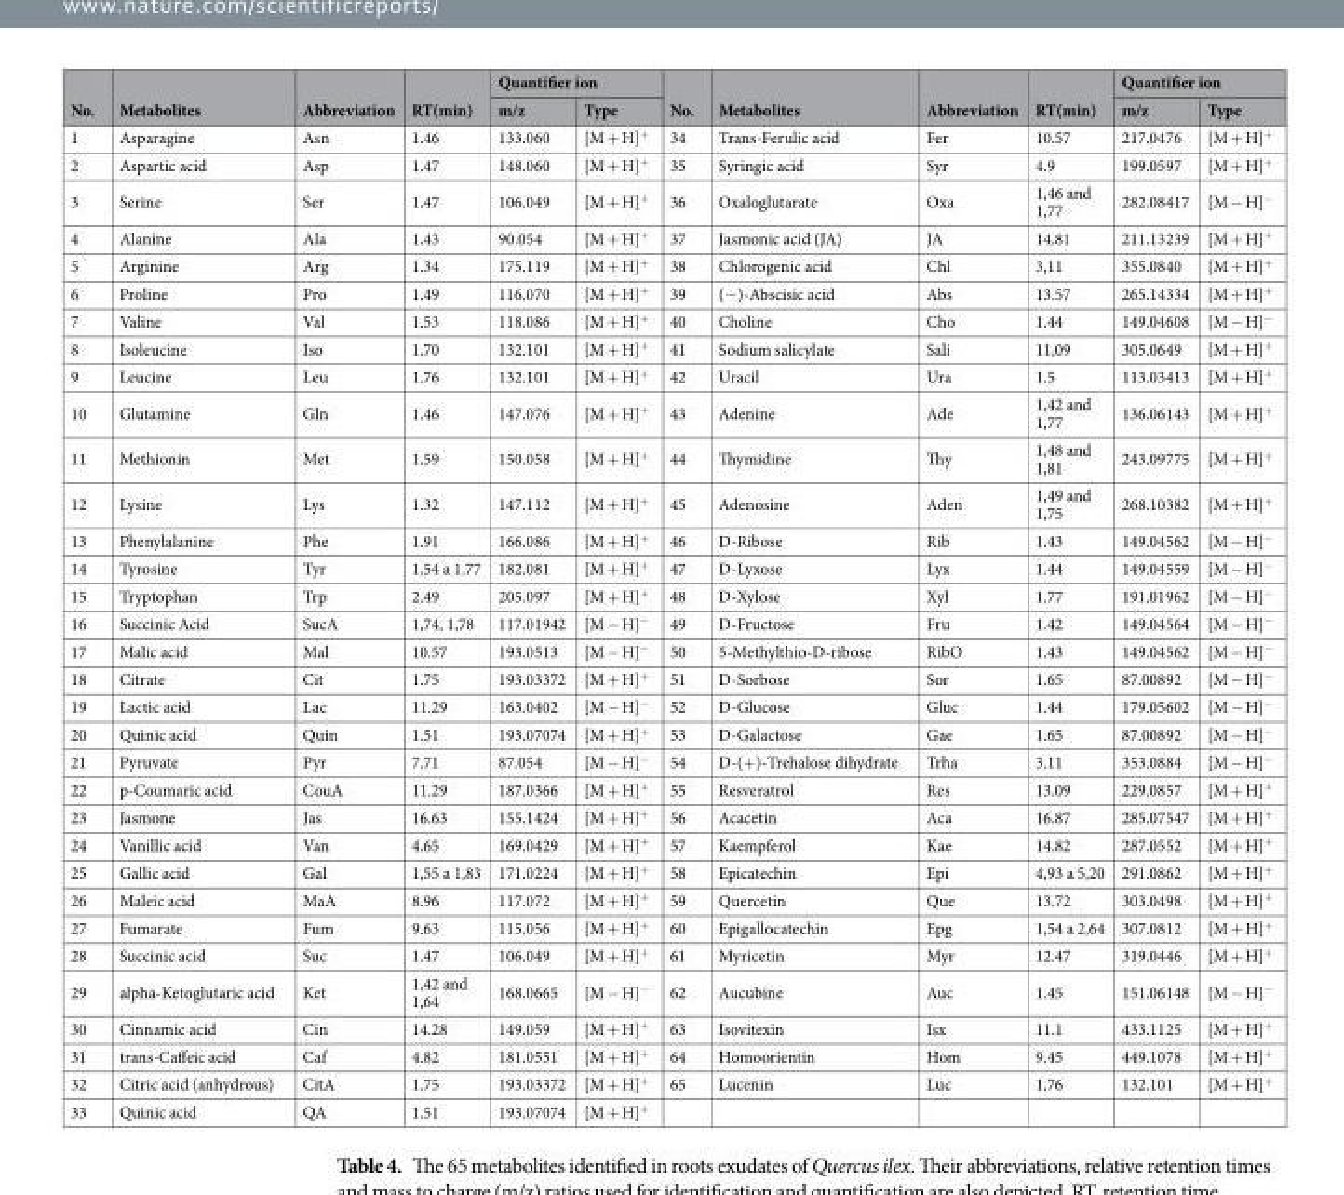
<table><thead><tr><td rowspan="2">No.</td><td rowspan="2">Metabolites</td><td rowspan="2">Abbreviation</td><td rowspan="2">RT(min)</td><td colspan="2">Quantifier ion</td><td rowspan="2">No.</td><td rowspan="2">Metabolites</td><td rowspan="2">Abbreviation</td><td rowspan="2">RT(min)</td><td colspan="2">Quantifier ion</td></tr><tr><td>m/z</td><td>Type</td><td>m/z</td><td>Type</td></tr></thead><tbody><tr><td>1</td><td>Asparagine</td><td>Asn</td><td>1.46</td><td>133.060</td><td>[M + H]<sup>+</sup></td><td>34</td><td>Trans-Ferulic acid</td><td>Fer</td><td>10.57</td><td>217.0476</td><td>[M + H]<sup>+</sup></td></tr><tr><td>2</td><td>Aspartic acid</td><td>Asp</td><td>1.47</td><td>148.060</td><td>[M + H]<sup>+</sup></td><td>35</td><td>Syringic acid</td><td>Syr</td><td>4.9</td><td>199.0597</td><td>[M + H]<sup>+</sup></td></tr><tr><td>3</td><td>Serine</td><td>Ser</td><td>1.47</td><td>106.049</td><td>[M + H]<sup>+</sup></td><td>36</td><td>Oxaloglutarate</td><td>Oxa</td><td>1,46 and 1,77</td><td>282.08417</td><td>[M − H]<sup>−</sup></td></tr><tr><td>4</td><td>Alanine</td><td>Ala</td><td>1.43</td><td>90.054</td><td>[M + H]<sup>+</sup></td><td>37</td><td>Jasmonic acid (JA)</td><td>JA</td><td>14.81</td><td>211.13239</td><td>[M + H]<sup>+</sup></td></tr><tr><td>5</td><td>Arginine</td><td>Arg</td><td>1.34</td><td>175.119</td><td>[M + H]<sup>+</sup></td><td>38</td><td>Chlorogenic acid</td><td>Chl</td><td>3,11</td><td>355.0840</td><td>[M + H]<sup>+</sup></td></tr><tr><td>6</td><td>Proline</td><td>Pro</td><td>1.49</td><td>116.070</td><td>[M + H]<sup>+</sup></td><td>39</td><td>(−)-Abscisic acid</td><td>Abs</td><td>13.57</td><td>265.14334</td><td>[M + H]<sup>+</sup></td></tr><tr><td>7</td><td>Valine</td><td>Val</td><td>1.53</td><td>118.086</td><td>[M + H]<sup>+</sup></td><td>40</td><td>Choline</td><td>Cho</td><td>1.44</td><td>149.04608</td><td>[M − H]<sup>−</sup></td></tr><tr><td>8</td><td>Isoleucine</td><td>Iso</td><td>1.70</td><td>132.101</td><td>[M + H]<sup>+</sup></td><td>41</td><td>Sodium salicylate</td><td>Sali</td><td>11,09</td><td>305.0649</td><td>[M + H]<sup>+</sup></td></tr><tr><td>9</td><td>Leucine</td><td>Leu</td><td>1.76</td><td>132.101</td><td>[M + H]<sup>+</sup></td><td>42</td><td>Uracil</td><td>Ura</td><td>1.5</td><td>113.03413</td><td>[M + H]<sup>+</sup></td></tr><tr><td>10</td><td>Glutamine</td><td>Gln</td><td>1.46</td><td>147.076</td><td>[M + H]<sup>+</sup></td><td>43</td><td>Adenine</td><td>Ade</td><td>1,42 and 1,77</td><td>136.06143</td><td>[M + H]<sup>+</sup></td></tr><tr><td>11</td><td>Methionin</td><td>Met</td><td>1.59</td><td>150.058</td><td>[M + H]<sup>+</sup></td><td>44</td><td>Thymidine</td><td>Thy</td><td>1,48 and 1,81</td><td>243.09775</td><td>[M + H]<sup>+</sup></td></tr><tr><td>12</td><td>Lysine</td><td>Lys</td><td>1.32</td><td>147.112</td><td>[M + H]<sup>+</sup></td><td>45</td><td>Adenosine</td><td>Aden</td><td>1,49 and 1,75</td><td>268.10382</td><td>[M + H]<sup>+</sup></td></tr><tr><td>13</td><td>Phenylalanine</td><td>Phe</td><td>1.91</td><td>166.086</td><td>[M + H]<sup>+</sup></td><td>46</td><td>D-Ribose</td><td>Rib</td><td>1.43</td><td>149.04562</td><td>[M − H]<sup>−</sup></td></tr><tr><td>14</td><td>Tyrosine</td><td>Tyr</td><td>1.54 a 1.77</td><td>182.081</td><td>[M + H]<sup>+</sup></td><td>47</td><td>D-Lyxose</td><td>Lyx</td><td>1.44</td><td>149.04559</td><td>[M − H]<sup>−</sup></td></tr><tr><td>15</td><td>Tryptophan</td><td>Trp</td><td>2.49</td><td>205.097</td><td>[M + H]<sup>+</sup></td><td>48</td><td>D-Xylose</td><td>Xyl</td><td>1.77</td><td>191.01962</td><td>[M − H]<sup>−</sup></td></tr><tr><td>16</td><td>Succinic Acid</td><td>SucA</td><td>1,74, 1,78</td><td>117.01942</td><td>[M − H]<sup>−</sup></td><td>49</td><td>D-Fructose</td><td>Fru</td><td>1.42</td><td>149.04564</td><td>[M − H]<sup>−</sup></td></tr><tr><td>17</td><td>Malic acid</td><td>Mal</td><td>10.57</td><td>193.0513</td><td>[M − H]<sup>−</sup></td><td>50</td><td>5-Methylthio-D-ribose</td><td>RibO</td><td>1.43</td><td>149.04562</td><td>[M − H]<sup>−</sup></td></tr><tr><td>18</td><td>Citrate</td><td>Cit</td><td>1.75</td><td>193.03372</td><td>[M + H]<sup>+</sup></td><td>51</td><td>D-Sorbose</td><td>Sor</td><td>1.65</td><td>87.00892</td><td>[M − H]<sup>−</sup></td></tr><tr><td>19</td><td>Lactic acid</td><td>Lac</td><td>11.29</td><td>163.0402</td><td>[M − H]<sup>−</sup></td><td>52</td><td>D-Glucose</td><td>Gluc</td><td>1.44</td><td>179.05602</td><td>[M − H]<sup>−</sup></td></tr><tr><td>20</td><td>Quinic acid</td><td>Quin</td><td>1.51</td><td>193.07074</td><td>[M + H]<sup>+</sup></td><td>53</td><td>D-Galactose</td><td>Gae</td><td>1.65</td><td>87.00892</td><td>[M − H]<sup>−</sup></td></tr><tr><td>21</td><td>Pyruvate</td><td>Pyr</td><td>7.71</td><td>87.054</td><td>[M − H]<sup>−</sup></td><td>54</td><td>D-(+)-Trehalose dihydrate</td><td>Trha</td><td>3.11</td><td>353.0884</td><td>[M − H]<sup>−</sup></td></tr><tr><td>22</td><td>p-Coumaric acid</td><td>CouA</td><td>11.29</td><td>187.0366</td><td>[M + H]<sup>+</sup></td><td>55</td><td>Resveratrol</td><td>Res</td><td>13.09</td><td>229.0857</td><td>[M + H]<sup>+</sup></td></tr><tr><td>23</td><td>Jasmone</td><td>Jas</td><td>16.63</td><td>155.1424</td><td>[M + H]<sup>+</sup></td><td>56</td><td>Acacetin</td><td>Aca</td><td>16.87</td><td>285.07547</td><td>[M + H]<sup>+</sup></td></tr><tr><td>24</td><td>Vanillic acid</td><td>Van</td><td>4.65</td><td>169.0429</td><td>[M + H]<sup>+</sup></td><td>57</td><td>Kaempferol</td><td>Kae</td><td>14.82</td><td>287.0552</td><td>[M + H]<sup>+</sup></td></tr><tr><td>25</td><td>Gallic acid</td><td>Gal</td><td>1,55 a 1,83</td><td>171.0224</td><td>[M + H]<sup>+</sup></td><td>58</td><td>Epicatechin</td><td>Epi</td><td>4,93 a 5,20</td><td>291.0862</td><td>[M + H]<sup>+</sup></td></tr><tr><td>26</td><td>Maleic acid</td><td>MaA</td><td>8.96</td><td>117.072</td><td>[M + H]<sup>+</sup></td><td>59</td><td>Quercetin</td><td>Que</td><td>13.72</td><td>303.0498</td><td>[M + H]<sup>+</sup></td></tr><tr><td>27</td><td>Fumarate</td><td>Fum</td><td>9.63</td><td>115.056</td><td>[M + H]<sup>+</sup></td><td>60</td><td>Epigallocatechin</td><td>Epg</td><td>1,54 a 2,64</td><td>307.0812</td><td>[M + H]<sup>+</sup></td></tr><tr><td>28</td><td>Succinic acid</td><td>Suc</td><td>1.47</td><td>106.049</td><td>[M + H]<sup>+</sup></td><td>61</td><td>Myricetin</td><td>Myr</td><td>12.47</td><td>319.0446</td><td>[M + H]<sup>+</sup></td></tr><tr><td>29</td><td>alpha-Ketoglutaric acid</td><td>Ket</td><td>1,42 and 1,64</td><td>168.0665</td><td>[M − H]<sup>−</sup></td><td>62</td><td>Aucubine</td><td>Auc</td><td>1.45</td><td>151.06148</td><td>[M − H]<sup>−</sup></td></tr><tr><td>30</td><td>Cinnamic acid</td><td>Cin</td><td>14.28</td><td>149.059</td><td>[M + H]<sup>+</sup></td><td>63</td><td>Isovitexin</td><td>Isx</td><td>11.1</td><td>433.1125</td><td>[M + H]<sup>+</sup></td></tr><tr><td>31</td><td>trans-Caffeic acid</td><td>Caf</td><td>4.82</td><td>181.0551</td><td>[M + H]<sup>+</sup></td><td>64</td><td>Homoorientin</td><td>Hom</td><td>9.45</td><td>449.1078</td><td>[M + H]<sup>+</sup></td></tr><tr><td>32</td><td>Citric acid (anhydrous)</td><td>CitA</td><td>1.75</td><td>193.03372</td><td>[M + H]<sup>+</sup></td><td>65</td><td>Lucenin</td><td>Luc</td><td>1.76</td><td>132.101</td><td>[M + H]<sup>+</sup></td></tr><tr><td>33</td><td>Quinic acid</td><td>QA</td><td>1.51</td><td>193.07074</td><td>[M + H]<sup>+</sup></td><td></td><td></td><td></td><td></td><td></td><td></td></tr></tbody></table>